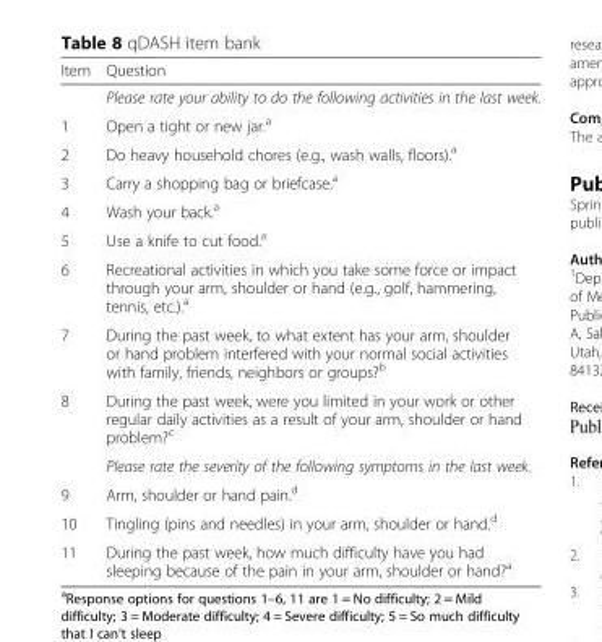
<table><thead><tr><td>Item</td><td>Question</td></tr></thead><tbody><tr><td></td><td>Please rate your ability to do the following activities in the last week.</td></tr><tr><td>1</td><td>Open a tight or new jar.<sup>a</sup></td></tr><tr><td>2</td><td>Do heavy household chores (e.g., wash walls, floors).<sup>a</sup></td></tr><tr><td>3</td><td>Carry a shopping bag or briefcase.<sup>a</sup></td></tr><tr><td>4</td><td>Wash your back.<sup>a</sup></td></tr><tr><td>5</td><td>Use a knife to cut food.<sup>a</sup></td></tr><tr><td>6</td><td>Recreational activities in which you take some force or impact through your arm, shoulder or hand (e.g., golf, hammering, tennis, etc.).<sup>a</sup></td></tr><tr><td>7</td><td>During the past week, to what extent has your arm, shoulder or hand problem interfered with your normal social activities with family, friends, neighbors or groups?<sup>b</sup></td></tr><tr><td rowspan="2">8</td><td>During the past week, were you limited in your work or other regular daily activities as a result of your arm, shoulder or hand problem?<sup>c</sup></td></tr><tr><td>Please rate the severity of the following symptoms in the last week.</td></tr><tr><td>9</td><td>Arm, shoulder or hand pain.<sup>d</sup></td></tr><tr><td>10</td><td>Tingling (pins and needles) in your arm, shoulder or hand.<sup>d</sup></td></tr><tr><td>11</td><td>During the past week, how much difficulty have you had sleeping because of the pain in your arm, shoulder or hand?<sup>a</sup></td></tr></tbody></table>